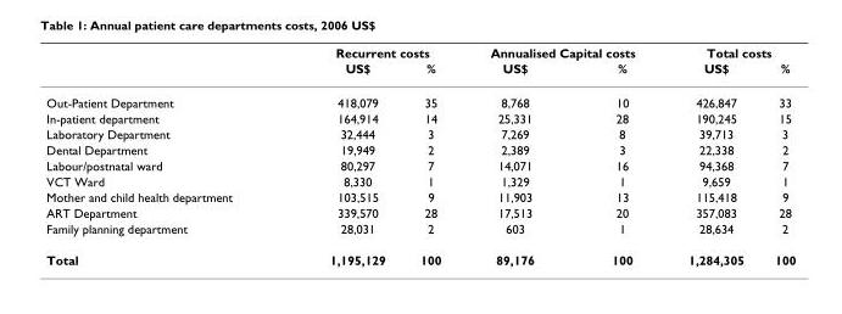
<table><thead><tr><td rowspan="2"></td><td colspan="2">Recurrent costs</td><td colspan="2">Annualised Capital costs</td><td colspan="2">Total costs</td></tr><tr><td>US$</td><td>%</td><td>US$</td><td>%</td><td>US$</td><td>%</td></tr></thead><tbody><tr><td>Out-Patient Department</td><td>418,079</td><td>35</td><td>8,768</td><td>10</td><td>426,847</td><td>33</td></tr><tr><td>In-patient department</td><td>164,914</td><td>14</td><td>25,331</td><td>28</td><td>190,245</td><td>15</td></tr><tr><td>Laboratory Department</td><td>32,444</td><td>3</td><td>7,269</td><td>8</td><td>39,713</td><td>3</td></tr><tr><td>Dental Department</td><td>19,949</td><td>2</td><td>2,389</td><td>3</td><td>22,338</td><td>2</td></tr><tr><td>Labour/postnatal ward</td><td>80,297</td><td>7</td><td>14,071</td><td>16</td><td>94,368</td><td>7</td></tr><tr><td>VCT Ward</td><td>8,330</td><td>1</td><td>1,329</td><td>1</td><td>9,659</td><td>1</td></tr><tr><td>Mother and child health department</td><td>103,515</td><td>9</td><td>11,903</td><td>13</td><td>115,418</td><td>9</td></tr><tr><td>ART Department</td><td>339,570</td><td>28</td><td>17,513</td><td>20</td><td>357,083</td><td>28</td></tr><tr><td>Family planning department</td><td>28,031</td><td>2</td><td>603</td><td>1</td><td>28,634</td><td>2</td></tr><tr><td>Total</td><td>1,195,129</td><td>100</td><td>89,176</td><td>100</td><td>1,284,305</td><td>100</td></tr></tbody></table>